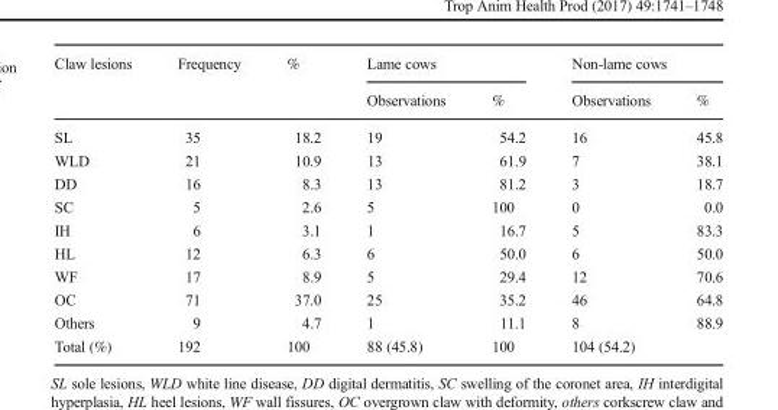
<table><thead><tr><td rowspan="2">Claw lesions</td><td rowspan="2">Frequency</td><td rowspan="2">%</td><td colspan="2">Lame cows</td><td colspan="2">Non-lame cows</td></tr><tr><td>Observations</td><td>%</td><td>Observations</td><td>%</td></tr></thead><tbody><tr><td>SL</td><td>35</td><td>18.2</td><td>19</td><td>54.2</td><td>16</td><td>45.8</td></tr><tr><td>WLD</td><td>21</td><td>10.9</td><td>13</td><td>61.9</td><td>7</td><td>38.1</td></tr><tr><td>DD</td><td>16</td><td>8.3</td><td>13</td><td>81.2</td><td>3</td><td>18.7</td></tr><tr><td>SC</td><td>5</td><td>2.6</td><td>5</td><td>100</td><td>0</td><td>0.0</td></tr><tr><td>IH</td><td>6</td><td>3.1</td><td>1</td><td>16.7</td><td>5</td><td>83.3</td></tr><tr><td>HL</td><td>12</td><td>6.3</td><td>6</td><td>50.0</td><td>6</td><td>50.0</td></tr><tr><td>WF</td><td>17</td><td>8.9</td><td>5</td><td>29.4</td><td>12</td><td>70.6</td></tr><tr><td>OC</td><td>71</td><td>37.0</td><td>25</td><td>35.2</td><td>46</td><td>64.8</td></tr><tr><td>Others</td><td>9</td><td>4.7</td><td>1</td><td>11.1</td><td>8</td><td>88.9</td></tr><tr><td>Total (%)</td><td>192</td><td>100</td><td>88 (45.8)</td><td>100</td><td>104 (54.2)</td><td></td></tr></tbody></table>